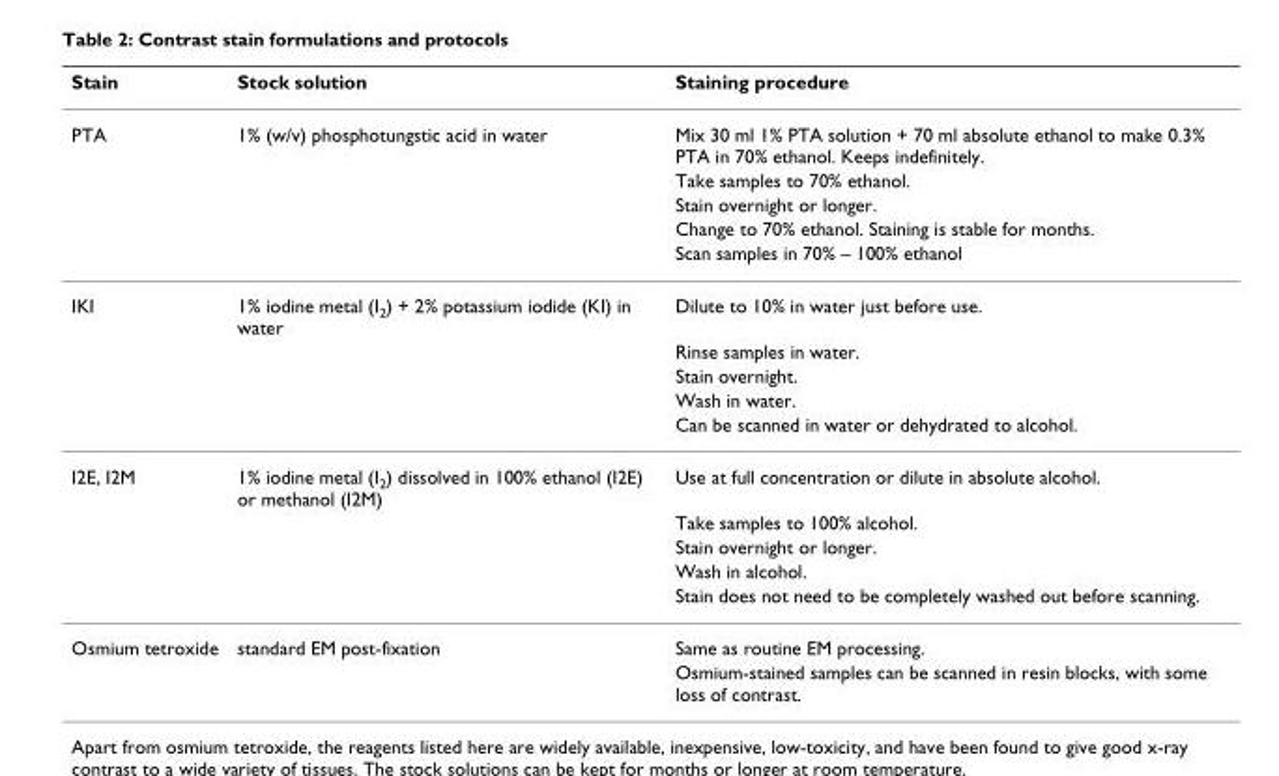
<table><thead><tr><td>Stain</td><td>Stock solution</td><td>Staining procedure</td></tr></thead><tbody><tr><td rowspan="5">PTA</td><td>1% (w/v) phosphotungstic acid in water</td><td>Mix 30 ml 1% PTA solution + 70 ml absolute ethanol to make 0.3% PTA in 70% ethanol. Keeps indefinitely.</td></tr><tr><td></td><td>Take samples to 70% ethanol.</td></tr><tr><td></td><td>Stain overnight or longer.</td></tr><tr><td></td><td>Change to 70% ethanol. Staining is stable for months.</td></tr><tr><td></td><td>Scan samples in 70% – 100% ethanol</td></tr><tr><td rowspan="5">IKI</td><td>1% iodine metal (I<sub>2</sub>) + 2% potassium iodide (KI) in water</td><td>Dilute to 10% in water just before use.</td></tr><tr><td></td><td>Rinse samples in water.</td></tr><tr><td></td><td>Stain overnight.</td></tr><tr><td></td><td>Wash in water.</td></tr><tr><td></td><td>Can be scanned in water or dehydrated to alcohol.</td></tr><tr><td rowspan="5">I2E, I2M</td><td>1% iodine metal (I<sub>2</sub>) dissolved in 100% ethanol (I2E) or methanol (I2M)</td><td>Use at full concentration or dilute in absolute alcohol.</td></tr><tr><td></td><td>Take samples to 100% alcohol.</td></tr><tr><td></td><td>Stain overnight or longer.</td></tr><tr><td></td><td>Wash in alcohol.</td></tr><tr><td></td><td>Stain does not need to be completely washed out before scanning.</td></tr><tr><td rowspan="2">Osmium tetroxide</td><td>standard EM post-fixation</td><td>Same as routine EM processing.</td></tr><tr><td></td><td>Osmium-stained samples can be scanned in resin blocks, with some loss of contrast.</td></tr></tbody></table>